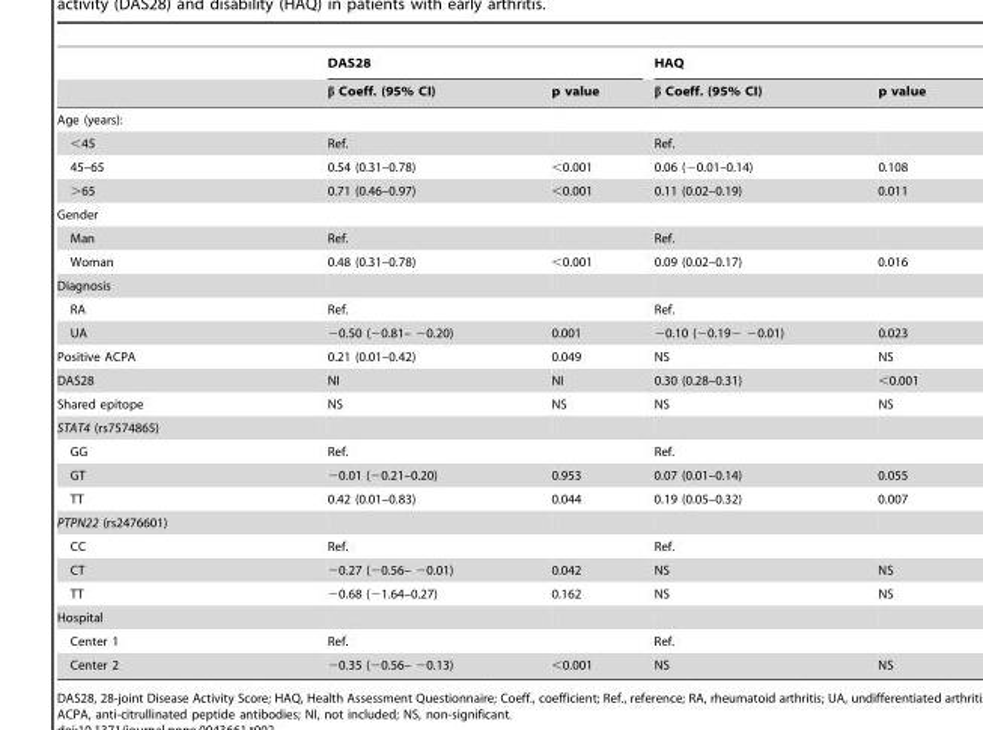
<table><thead><tr><td rowspan="2"></td><td colspan="2">DAS28</td><td colspan="2">HAQ</td></tr><tr><td>β Coeff. (95% CI)</td><td>p value</td><td>β Coeff. (95% CI)</td><td>p value</td></tr></thead><tbody><tr><td colspan="5">Age (years):</td></tr><tr><td>&lt;45</td><td>Ref.</td><td></td><td>Ref.</td><td></td></tr><tr><td>45–65</td><td>0.54 (0.31–0.78)</td><td>&lt;0.001</td><td>0.06 (−0.01–0.14)</td><td>0.108</td></tr><tr><td>&gt;65</td><td>0.71 (0.46–0.97)</td><td>&lt;0.001</td><td>0.11 (0.02–0.19)</td><td>0.011</td></tr><tr><td colspan="5">Gender</td></tr><tr><td>Man</td><td>Ref.</td><td></td><td>Ref.</td><td></td></tr><tr><td>Woman</td><td>0.48 (0.31–0.78)</td><td>&lt;0.001</td><td>0.09 (0.02–0.17)</td><td>0.016</td></tr><tr><td colspan="5">Diagnosis</td></tr><tr><td>RA</td><td>Ref.</td><td></td><td>Ref.</td><td></td></tr><tr><td>UA</td><td>−0.50 (−0.81– −0.20)</td><td>0.001</td><td>−0.10 (−0.19− −0.01)</td><td>0.023</td></tr><tr><td>Positive ACPA</td><td>0.21 (0.01–0.42)</td><td>0.049</td><td>NS</td><td>NS</td></tr><tr><td>DAS28</td><td>NI</td><td>NI</td><td>0.30 (0.28–0.31)</td><td>&lt;0.001</td></tr><tr><td>Shared epitope</td><td>NS</td><td>NS</td><td>NS</td><td>NS</td></tr><tr><td colspan="5">STAT4 (rs7574865)</td></tr><tr><td>GG</td><td>Ref.</td><td></td><td>Ref.</td><td></td></tr><tr><td>GT</td><td>−0.01 (−0.21–0.20)</td><td>0.953</td><td>0.07 (0.01–0.14)</td><td>0.055</td></tr><tr><td>TT</td><td>0.42 (0.01–0.83)</td><td>0.044</td><td>0.19 (0.05–0.32)</td><td>0.007</td></tr><tr><td colspan="5">PTPN22 (rs2476601)</td></tr><tr><td>CC</td><td>Ref.</td><td></td><td>Ref.</td><td></td></tr><tr><td>CT</td><td>−0.27 (−0.56– −0.01)</td><td>0.042</td><td>NS</td><td>NS</td></tr><tr><td>TT</td><td>−0.68 (−1.64–0.27)</td><td>0.162</td><td>NS</td><td>NS</td></tr><tr><td colspan="5">Hospital</td></tr><tr><td>Center 1</td><td>Ref.</td><td></td><td>Ref.</td><td></td></tr><tr><td>Center 2</td><td>−0.35 (−0.56– −0.13)</td><td>&lt;0.001</td><td>NS</td><td>NS</td></tr></tbody></table>